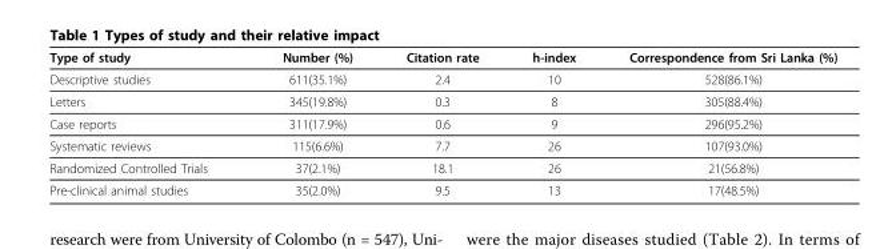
<table><thead><tr><td>Type of study</td><td>Number (%)</td><td>Citation rate</td><td>h-index</td><td>Correspondence from Sri Lanka (%)</td></tr></thead><tbody><tr><td>Descriptive studies</td><td>611(35.1%)</td><td>2.4</td><td>10</td><td>528(86.1%)</td></tr><tr><td>Letters</td><td>345(19.8%)</td><td>0.3</td><td>8</td><td>305(88.4%)</td></tr><tr><td>Case reports</td><td>311(17.9%)</td><td>0.6</td><td>9</td><td>296(95.2%)</td></tr><tr><td>Systematic reviews</td><td>115(6.6%)</td><td>7.7</td><td>26</td><td>107(93.0%)</td></tr><tr><td>Randomized Controlled Trials</td><td>37(2.1%)</td><td>18.1</td><td>26</td><td>21(56.8%)</td></tr><tr><td>Pre-clinical animal studies</td><td>35(2.0%)</td><td>9.5</td><td>13</td><td>17(48.5%)</td></tr></tbody></table>